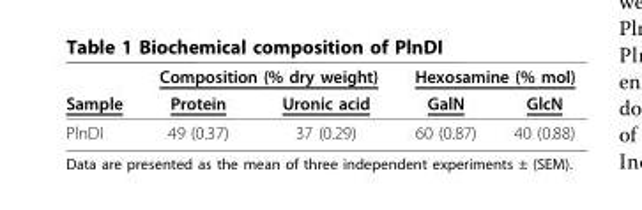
<table><thead><tr><td rowspan="2">Sample</td><td colspan="2">Composition (% dry weight)</td><td colspan="2">Hexosamine (% mol)</td></tr><tr><td>Protein</td><td>Uronic acid</td><td>GalN</td><td>GlcN</td></tr></thead><tbody><tr><td>PlnDI</td><td>49 (0.37)</td><td>37 (0.29)</td><td>60 (0.87)</td><td>40 (0.88)</td></tr></tbody></table>